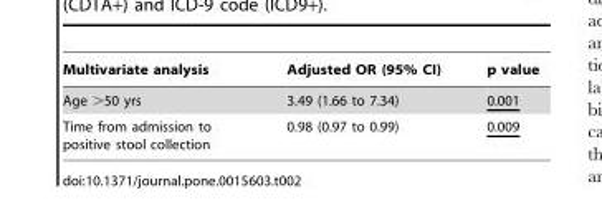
<table><thead><tr><td>Multivariate analysis</td><td>Adjusted OR (95% CI)</td><td>p value</td></tr></thead><tbody><tr><td>Age &gt;50 yrs</td><td>3.49 (1.66 to 7.34)</td><td>0.001</td></tr><tr><td>Time from admission to positive stool collection</td><td>0.98 (0.97 to 0.99)</td><td>0.009</td></tr></tbody></table>